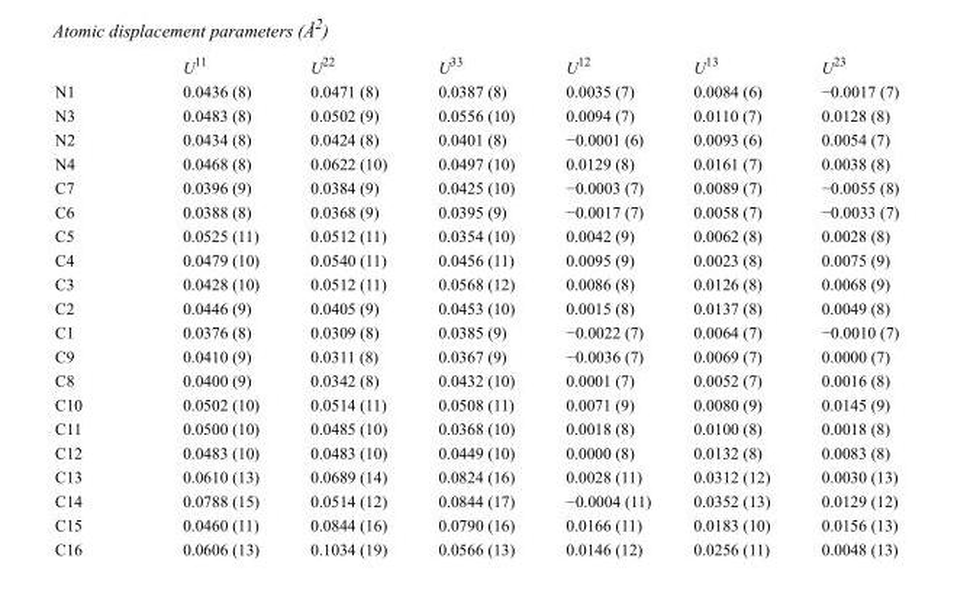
<table><thead><tr><td></td><td>U<sup>11</sup></td><td>U<sup>22</sup></td><td>U<sup>33</sup></td><td>U<sup>12</sup></td><td>U<sup>13</sup></td><td>U<sup>23</sup></td></tr></thead><tbody><tr><td>N1</td><td>0.0436 (8)</td><td>0.0471 (8)</td><td>0.0387 (8)</td><td>0.0035 (7)</td><td>0.0084 (6)</td><td>−0.0017 (7)</td></tr><tr><td>N3</td><td>0.0483 (8)</td><td>0.0502 (9)</td><td>0.0556 (10)</td><td>0.0094 (7)</td><td>0.0110 (7)</td><td>0.0128 (8)</td></tr><tr><td>N2</td><td>0.0434 (8)</td><td>0.0424 (8)</td><td>0.0401 (8)</td><td>−0.0001 (6)</td><td>0.0093 (6)</td><td>0.0054 (7)</td></tr><tr><td>N4</td><td>0.0468 (8)</td><td>0.0622 (10)</td><td>0.0497 (10)</td><td>0.0129 (8)</td><td>0.0161 (7)</td><td>0.0038 (8)</td></tr><tr><td>C7</td><td>0.0396 (9)</td><td>0.0384 (9)</td><td>0.0425 (10)</td><td>−0.0003 (7)</td><td>0.0089 (7)</td><td>−0.0055 (8)</td></tr><tr><td>C6</td><td>0.0388 (8)</td><td>0.0368 (9)</td><td>0.0395 (9)</td><td>−0.0017 (7)</td><td>0.0058 (7)</td><td>−0.0033 (7)</td></tr><tr><td>C5</td><td>0.0525 (11)</td><td>0.0512 (11)</td><td>0.0354 (10)</td><td>0.0042 (9)</td><td>0.0062 (8)</td><td>0.0028 (8)</td></tr><tr><td>C4</td><td>0.0479 (10)</td><td>0.0540 (11)</td><td>0.0456 (11)</td><td>0.0095 (9)</td><td>0.0023 (8)</td><td>0.0075 (9)</td></tr><tr><td>C3</td><td>0.0428 (10)</td><td>0.0512 (11)</td><td>0.0568 (12)</td><td>0.0086 (8)</td><td>0.0126 (8)</td><td>0.0068 (9)</td></tr><tr><td>C2</td><td>0.0446 (9)</td><td>0.0405 (9)</td><td>0.0453 (10)</td><td>0.0015 (8)</td><td>0.0137 (8)</td><td>0.0049 (8)</td></tr><tr><td>C1</td><td>0.0376 (8)</td><td>0.0309 (8)</td><td>0.0385 (9)</td><td>−0.0022 (7)</td><td>0.0064 (7)</td><td>−0.0010 (7)</td></tr><tr><td>C9</td><td>0.0410 (9)</td><td>0.0311 (8)</td><td>0.0367 (9)</td><td>−0.0036 (7)</td><td>0.0069 (7)</td><td>0.0000 (7)</td></tr><tr><td>C8</td><td>0.0400 (9)</td><td>0.0342 (8)</td><td>0.0432 (10)</td><td>0.0001 (7)</td><td>0.0052 (7)</td><td>0.0016 (8)</td></tr><tr><td>C10</td><td>0.0502 (10)</td><td>0.0514 (11)</td><td>0.0508 (11)</td><td>0.0071 (9)</td><td>0.0080 (9)</td><td>0.0145 (9)</td></tr><tr><td>C11</td><td>0.0500 (10)</td><td>0.0485 (10)</td><td>0.0368 (10)</td><td>0.0018 (8)</td><td>0.0100 (8)</td><td>0.0018 (8)</td></tr><tr><td>C12</td><td>0.0483 (10)</td><td>0.0483 (10)</td><td>0.0449 (10)</td><td>0.0000 (8)</td><td>0.0132 (8)</td><td>0.0083 (8)</td></tr><tr><td>C13</td><td>0.0610 (13)</td><td>0.0689 (14)</td><td>0.0824 (16)</td><td>0.0028 (11)</td><td>0.0312 (12)</td><td>0.0030 (13)</td></tr><tr><td>C14</td><td>0.0788 (15)</td><td>0.0514 (12)</td><td>0.0844 (17)</td><td>−0.0004 (11)</td><td>0.0352 (13)</td><td>0.0129 (12)</td></tr><tr><td>C15</td><td>0.0460 (11)</td><td>0.0844 (16)</td><td>0.0790 (16)</td><td>0.0166 (11)</td><td>0.0183 (10)</td><td>0.0156 (13)</td></tr><tr><td>C16</td><td>0.0606 (13)</td><td>0.1034 (19)</td><td>0.0566 (13)</td><td>0.0146 (12)</td><td>0.0256 (11)</td><td>0.0048 (13)</td></tr></tbody></table>